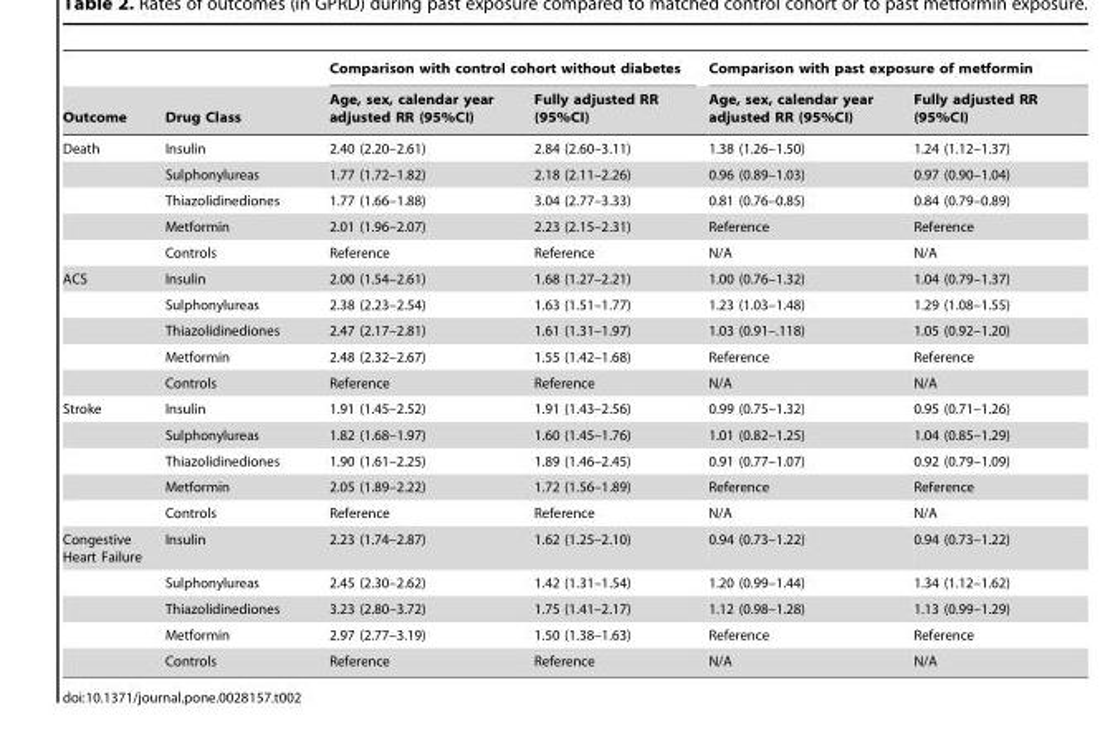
<table><thead><tr><td rowspan="2">Outcome</td><td rowspan="2">Drug Class</td><td colspan="2">Comparison with control cohort without diabetes</td><td colspan="2">Comparison with past exposure of metformin</td></tr><tr><td>Age, sex, calendar year adjusted RR (95%CI)</td><td>Fully adjusted RR (95%CI)</td><td>Age, sex, calendar year adjusted RR (95%CI)</td><td>Fully adjusted RR (95%CI)</td></tr></thead><tbody><tr><td rowspan="5">Death</td><td>Insulin</td><td>2.40 (2.20–2.61)</td><td>2.84 (2.60–3.11)</td><td>1.38 (1.26–1.50)</td><td>1.24 (1.12–1.37)</td></tr><tr><td>Sulphonylureas</td><td>1.77 (1.72–1.82)</td><td>2.18 (2.11–2.26)</td><td>0.96 (0.89–1.03)</td><td>0.97 (0.90–1.04)</td></tr><tr><td>Thiazolidinediones</td><td>1.77 (1.66–1.88)</td><td>3.04 (2.77–3.33)</td><td>0.81 (0.76–0.85)</td><td>0.84 (0.79–0.89)</td></tr><tr><td>Metformin</td><td>2.01 (1.96–2.07)</td><td>2.23 (2.15–2.31)</td><td>Reference</td><td>Reference</td></tr><tr><td>Controls</td><td>Reference</td><td>Reference</td><td>N/A</td><td>N/A</td></tr><tr><td rowspan="5">ACS</td><td>Insulin</td><td>2.00 (1.54–2.61)</td><td>1.68 (1.27–2.21)</td><td>1.00 (0.76–1.32)</td><td>1.04 (0.79–1.37)</td></tr><tr><td>Sulphonylureas</td><td>2.38 (2.23–2.54)</td><td>1.63 (1.51–1.77)</td><td>1.23 (1.03–1.48)</td><td>1.29 (1.08–1.55)</td></tr><tr><td>Thiazolidinediones</td><td>2.47 (2.17–2.81)</td><td>1.61 (1.31–1.97)</td><td>1.03 (0.91–.118)</td><td>1.05 (0.92–1.20)</td></tr><tr><td>Metformin</td><td>2.48 (2.32–2.67)</td><td>1.55 (1.42–1.68)</td><td>Reference</td><td>Reference</td></tr><tr><td>Controls</td><td>Reference</td><td>Reference</td><td>N/A</td><td>N/A</td></tr><tr><td rowspan="5">Stroke</td><td>Insulin</td><td>1.91 (1.45–2.52)</td><td>1.91 (1.43–2.56)</td><td>0.99 (0.75–1.32)</td><td>0.95 (0.71–1.26)</td></tr><tr><td>Sulphonylureas</td><td>1.82 (1.68–1.97)</td><td>1.60 (1.45–1.76)</td><td>1.01 (0.82–1.25)</td><td>1.04 (0.85–1.29)</td></tr><tr><td>Thiazolidinediones</td><td>1.90 (1.61–2.25)</td><td>1.89 (1.46–2.45)</td><td>0.91 (0.77–1.07)</td><td>0.92 (0.79–1.09)</td></tr><tr><td>Metformin</td><td>2.05 (1.89–2.22)</td><td>1.72 (1.56–1.89)</td><td>Reference</td><td>Reference</td></tr><tr><td>Controls</td><td>Reference</td><td>Reference</td><td>N/A</td><td>N/A</td></tr><tr><td rowspan="5">Congestive Heart Failure</td><td>Insulin</td><td>2.23 (1.74–2.87)</td><td>1.62 (1.25–2.10)</td><td>0.94 (0.73–1.22)</td><td>0.94 (0.73–1.22)</td></tr><tr><td>Sulphonylureas</td><td>2.45 (2.30–2.62)</td><td>1.42 (1.31–1.54)</td><td>1.20 (0.99–1.44)</td><td>1.34 (1.12–1.62)</td></tr><tr><td>Thiazolidinediones</td><td>3.23 (2.80–3.72)</td><td>1.75 (1.41–2.17)</td><td>1.12 (0.98–1.28)</td><td>1.13 (0.99–1.29)</td></tr><tr><td>Metformin</td><td>2.97 (2.77–3.19)</td><td>1.50 (1.38–1.63)</td><td>Reference</td><td>Reference</td></tr><tr><td>Controls</td><td>Reference</td><td>Reference</td><td>N/A</td><td>N/A</td></tr></tbody></table>